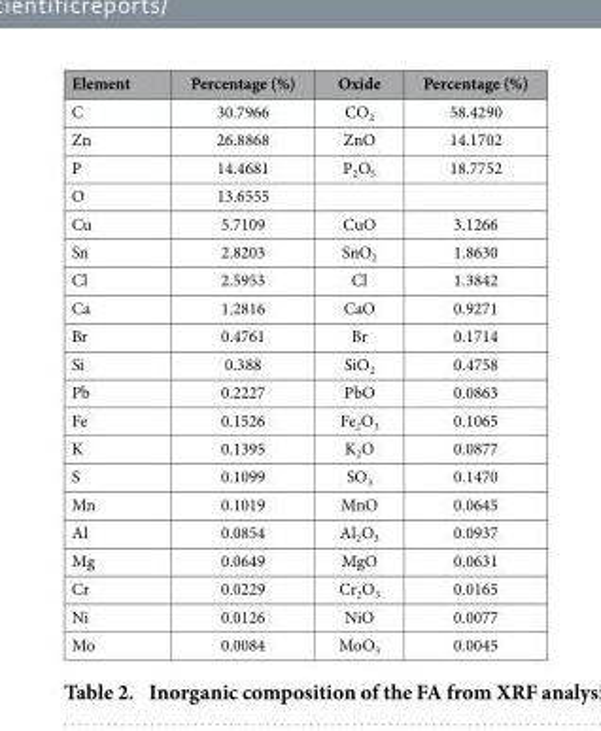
<table><thead><tr><td>Element</td><td>Percentage (%)</td><td>Oxide</td><td>Percentage (%)</td></tr></thead><tbody><tr><td>C</td><td>30.7966</td><td>CO<sub>2</sub></td><td>58.4290</td></tr><tr><td>Zn</td><td>26.8868</td><td>ZnO</td><td>14.1702</td></tr><tr><td>P</td><td>14.4681</td><td>P<sub>2</sub>O<sub>5</sub></td><td>18.7752</td></tr><tr><td>O</td><td>13.6555</td><td></td><td></td></tr><tr><td>Cu</td><td>5.7109</td><td>CuO</td><td>3.1266</td></tr><tr><td>Sn</td><td>2.8203</td><td>SnO<sub>2</sub></td><td>1.8630</td></tr><tr><td>Cl</td><td>2.5953</td><td>Cl</td><td>1.3842</td></tr><tr><td>Ca</td><td>1.2816</td><td>CaO</td><td>0.9271</td></tr><tr><td>Br</td><td>0.4761</td><td>Br</td><td>0.1714</td></tr><tr><td>Si</td><td>0.388</td><td>SiO<sub>2</sub></td><td>0.4758</td></tr><tr><td>Pb</td><td>0.2227</td><td>PbO</td><td>0.0863</td></tr><tr><td>Fe</td><td>0.1526</td><td>Fe<sub>2</sub>O<sub>3</sub></td><td>0.1065</td></tr><tr><td>K</td><td>0.1395</td><td>K<sub>2</sub>O</td><td>0.0877</td></tr><tr><td>S</td><td>0.1099</td><td>SO<sub>3</sub></td><td>0.1470</td></tr><tr><td>Mn</td><td>0.1019</td><td>MnO</td><td>0.0645</td></tr><tr><td>Al</td><td>0.0854</td><td>Al<sub>2</sub>O<sub>3</sub></td><td>0.0937</td></tr><tr><td>Mg</td><td>0.0649</td><td>MgO</td><td>0.0631</td></tr><tr><td>Cr</td><td>0.0229</td><td>Cr<sub>2</sub>O<sub>3</sub></td><td>0.0165</td></tr><tr><td>Ni</td><td>0.0126</td><td>NiO</td><td>0.0077</td></tr><tr><td>Mo</td><td>0.0084</td><td>MoO<sub>3</sub></td><td>0.0045</td></tr></tbody></table>